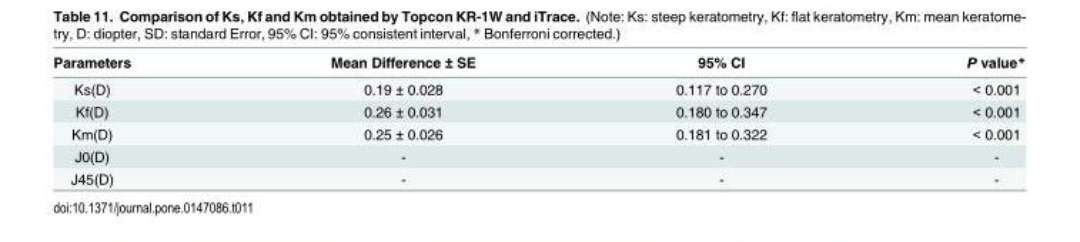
<table><thead><tr><td>Parameters</td><td>Mean Difference ± SE</td><td>95% CI</td><td>P value*</td></tr></thead><tbody><tr><td>Ks(D)</td><td>0.19 ± 0.028</td><td>0.117 to 0.270</td><td>&lt; 0.001</td></tr><tr><td>Kf(D)</td><td>0.26 ± 0.031</td><td>0.180 to 0.347</td><td>&lt; 0.001</td></tr><tr><td>Km(D)</td><td>0.25 ± 0.026</td><td>0.181 to 0.322</td><td>&lt; 0.001</td></tr><tr><td>J0(D)</td><td>-</td><td>-</td><td>-</td></tr><tr><td>J45(D)</td><td>-</td><td>-</td><td>-</td></tr></tbody></table>